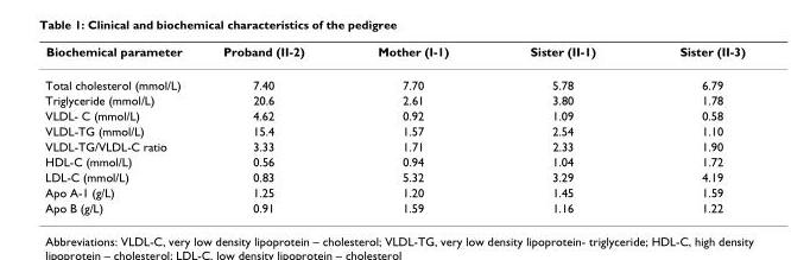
<table><thead><tr><td>Biochemical parameter</td><td>Proband (II-2)</td><td>Mother (I-1)</td><td>Sister (II-1)</td><td>Sister (II-3)</td></tr></thead><tbody><tr><td>Total cholesterol (mmol/L)</td><td>7.40</td><td>7.70</td><td>5.78</td><td>6.79</td></tr><tr><td>Triglyceride (mmol/L)</td><td>20.6</td><td>2.61</td><td>3.80</td><td>1.78</td></tr><tr><td>VLDL- C (mmol/L)</td><td>4.62</td><td>0.92</td><td>1.09</td><td>0.58</td></tr><tr><td>VLDL-TG (mmol/L)</td><td>15.4</td><td>1.57</td><td>2.54</td><td>1.10</td></tr><tr><td>VLDL-TG/VLDL-C ratio</td><td>3.33</td><td>1.71</td><td>2.33</td><td>1.90</td></tr><tr><td>HDL-C (mmol/L)</td><td>0.56</td><td>0.94</td><td>1.04</td><td>1.72</td></tr><tr><td>LDL-C (mmol/L)</td><td>0.83</td><td>5.32</td><td>3.29</td><td>4.19</td></tr><tr><td>Apo A-1 (g/L)</td><td>1.25</td><td>1.20</td><td>1.45</td><td>1.59</td></tr><tr><td>Apo B (g/L)</td><td>0.91</td><td>1.59</td><td>1.16</td><td>1.22</td></tr></tbody></table>